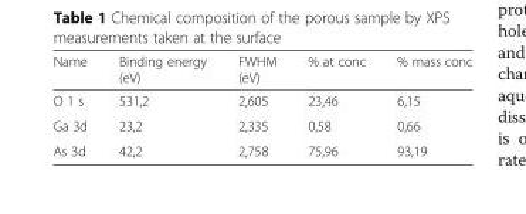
<table><thead><tr><td>Name</td><td>Binding energy (eV)</td><td>FWHM (eV)</td><td>% at conc</td><td>% mass conc</td></tr></thead><tbody><tr><td>O 1 s</td><td>531,2</td><td>2,605</td><td>23,46</td><td>6,15</td></tr><tr><td>Ga 3d</td><td>23,2</td><td>2,335</td><td>0,58</td><td>0,66</td></tr><tr><td>As 3d</td><td>42,2</td><td>2,758</td><td>75,96</td><td>93,19</td></tr></tbody></table>